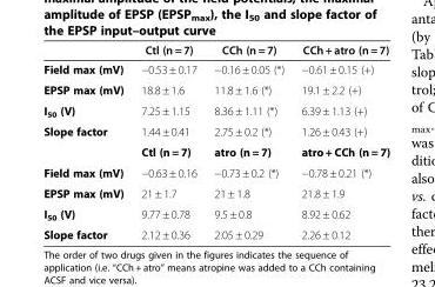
<table><thead><tr><td></td><td>Ctl (n = 7)</td><td>CCh (n = 7)</td><td>CCh + atro (n = 7)</td></tr></thead><tbody><tr><td>Field max (mV)</td><td>−0.53 ± 0.17</td><td>−0.16 ± 0.05 (*)</td><td>−0.61 ± 0.15 (+)</td></tr><tr><td>EPSP max (mV)</td><td>18.8 ± 1.6</td><td>11.8 ± 1.6 (*)</td><td>19.1 ± 2.2 (+)</td></tr><tr><td>I<sub>50</sub> (V)</td><td>7.25 ± 1.15</td><td>8.36 ± 1.11 (*)</td><td>6.39 ± 1.13 (+)</td></tr><tr><td rowspan="2">Slope factor</td><td>1.44 ± 0.41</td><td>2.75 ± 0.2 (*)</td><td>1.26 ± 0.43 (+)</td></tr><tr><td>Ctl (n = 7)</td><td>atro (n = 7)</td><td>atro + CCh (n = 7)</td></tr><tr><td>Field max (mV)</td><td>−0.63 ± 0.16</td><td>−0.73 ± 0.2 (*)</td><td>−0.78 ± 0.21 (*)</td></tr><tr><td>EPSP max (mV)</td><td>21 ± 1.7</td><td>21 ± 1.8</td><td>21.8 ± 1.9</td></tr><tr><td>I<sub>50</sub> (V)</td><td>9.77 ± 0.78</td><td>9.5 ± 0.8</td><td>8.92 ± 0.62</td></tr><tr><td>Slope factor</td><td>2.12 ± 0.36</td><td>2.05 ± 0.29</td><td>2.26 ± 0.12</td></tr></tbody></table>